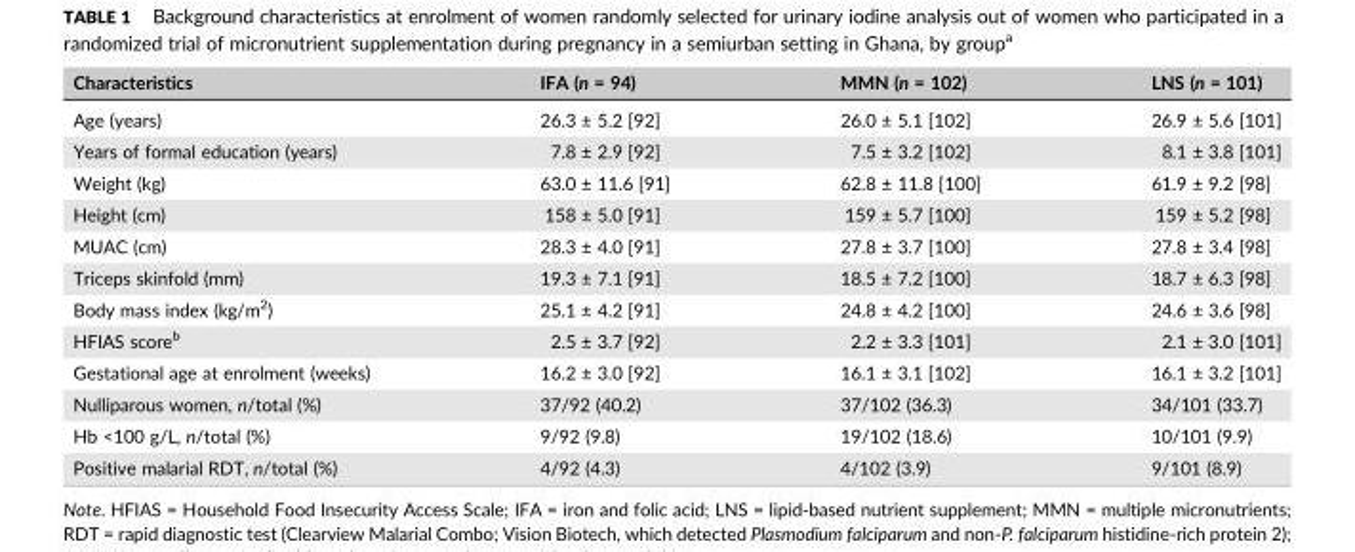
<table><thead><tr><td>Characteristics</td><td>IFA (n = 94)</td><td>MMN (n = 102)</td><td>LNS (n = 101)</td></tr></thead><tbody><tr><td>Age (years)</td><td>26.3 ± 5.2 [92]</td><td>26.0 ± 5.1 [102]</td><td>26.9 ± 5.6 [101]</td></tr><tr><td>Years of formal education (years)</td><td>7.8 ± 2.9 [92]</td><td>7.5 ± 3.2 [102]</td><td>8.1 ± 3.8 [101]</td></tr><tr><td>Weight (kg)</td><td>63.0 ± 11.6 [91]</td><td>62.8 ± 11.8 [100]</td><td>61.9 ± 9.2 [98]</td></tr><tr><td>Height (cm)</td><td>158 ± 5.0 [91]</td><td>159 ± 5.7 [100]</td><td>159 ± 5.2 [98]</td></tr><tr><td>MUAC (cm)</td><td>28.3 ± 4.0 [91]</td><td>27.8 ± 3.7 [100]</td><td>27.8 ± 3.4 [98]</td></tr><tr><td>Triceps skinfold (mm)</td><td>19.3 ± 7.1 [91]</td><td>18.5 ± 7.2 [100]</td><td>18.7 ± 6.3 [98]</td></tr><tr><td>Body mass index (kg/m<sup>2</sup>)</td><td>25.1 ± 4.2 [91]</td><td>24.8 ± 4.2 [100]</td><td>24.6 ± 3.6 [98]</td></tr><tr><td>HFIAS score<sup>b</sup></td><td>2.5 ± 3.7 [92]</td><td>2.2 ± 3.3 [101]</td><td>2.1 ± 3.0 [101]</td></tr><tr><td>Gestational age at enrolment (weeks)</td><td>16.2 ± 3.0 [92]</td><td>16.1 ± 3.1 [102]</td><td>16.1 ± 3.2 [101]</td></tr><tr><td>Nulliparous women, n/total (%)</td><td>37/92 (40.2)</td><td>37/102 (36.3)</td><td>34/101 (33.7)</td></tr><tr><td>Hb &lt;100 g/L, n/total (%)</td><td>9/92 (9.8)</td><td>19/102 (18.6)</td><td>10/101 (9.9)</td></tr><tr><td>Positive malarial RDT, n/total (%)</td><td>4/92 (4.3)</td><td>4/102 (3.9)</td><td>9/101 (8.9)</td></tr></tbody></table>